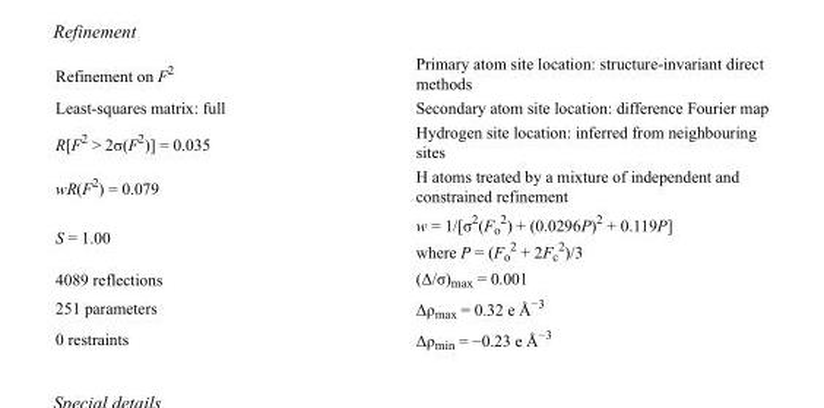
<table><tbody><tr><td>Refinement on F<sup>2</sup></td><td>Primary atom site location: structure-invariant direct methods</td></tr><tr><td>Least-squares matrix: full</td><td>Secondary atom site location: difference Fourier map</td></tr><tr><td>R[F<sup>2</sup> &gt; 2σ(F<sup>2</sup>)] = 0.035</td><td>Hydrogen site location: inferred from neighbouring sites</td></tr><tr><td>wR(F<sup>2</sup>) = 0.079</td><td>H atoms treated by a mixture of independent and constrained refinement</td></tr><tr><td>S = 1.00</td><td>w = 1/[σ<sup>2</sup>(F<sub>o</sub> <sup>2</sup>) + (0.0296P)<sup>2</sup> + 0.119P] where P = (F<sub>o</sub> <sup>2</sup> + 2F<sub>c</sub> <sup>2</sup>)/3</td></tr><tr><td>4089 reflections</td><td>(Δ/σ)<sub>max</sub> = 0.001</td></tr><tr><td>251 parameters</td><td>Δρ<sub>max</sub> = 0.32 e Å<sup>−3</sup></td></tr><tr><td>0 restraints</td><td>Δρ<sub>min</sub> = −0.23 e Å<sup>−3</sup></td></tr></tbody></table>